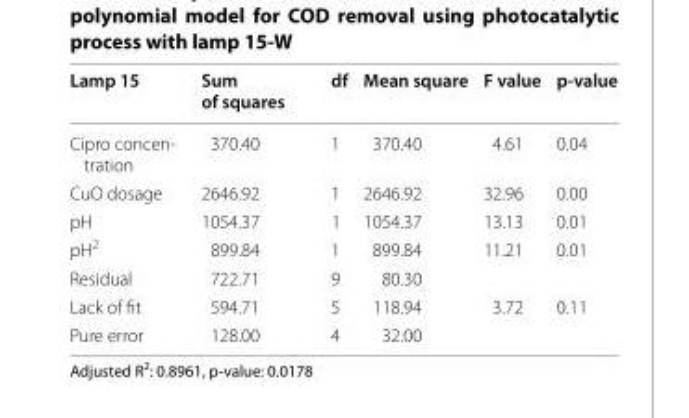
<table><thead><tr><td>Lamp 15</td><td>Sum of squares</td><td>df</td><td>Mean square</td><td>F value</td><td>p-value</td></tr></thead><tbody><tr><td>Cipro concen- tration</td><td>370.40</td><td>1</td><td>370.40</td><td>4.61</td><td>0.04</td></tr><tr><td>CuO dosage</td><td>2646.92</td><td>1</td><td>2646.92</td><td>32.96</td><td>0.00</td></tr><tr><td>pH</td><td>1054.37</td><td>1</td><td>1054.37</td><td>13.13</td><td>0.01</td></tr><tr><td>pH<sup>2</sup></td><td>899.84</td><td>1</td><td>899.84</td><td>11.21</td><td>0.01</td></tr><tr><td>Residual</td><td>722.71</td><td>9</td><td>80.30</td><td></td><td></td></tr><tr><td>Lack of fit</td><td>594.71</td><td>5</td><td>118.94</td><td>3.72</td><td>0.11</td></tr><tr><td>Pure error</td><td>128.00</td><td>4</td><td>32.00</td><td></td><td></td></tr></tbody></table>